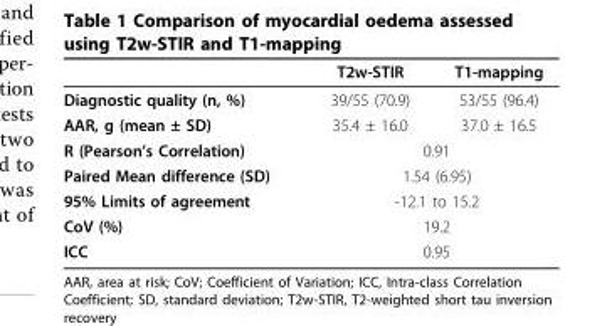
<table><thead><tr><td></td><td>T2w-STIR</td><td>T1-mapping</td></tr></thead><tbody><tr><td>Diagnostic quality (n, %)</td><td>39/55 (70.9)</td><td>53/55 (96.4)</td></tr><tr><td>AAR, g (mean ± SD)</td><td>35.4 ± 16.0</td><td>37.0 ± 16.5</td></tr><tr><td>R (Pearson’s Correlation)</td><td colspan="2">0.91</td></tr><tr><td>Paired Mean difference (SD)</td><td colspan="2">1.54 (6.95)</td></tr><tr><td>95% Limits of agreement</td><td colspan="2">-12.1 to 15.2</td></tr><tr><td>CoV (%)</td><td colspan="2">19.2</td></tr><tr><td>ICC</td><td colspan="2">0.95</td></tr></tbody></table>